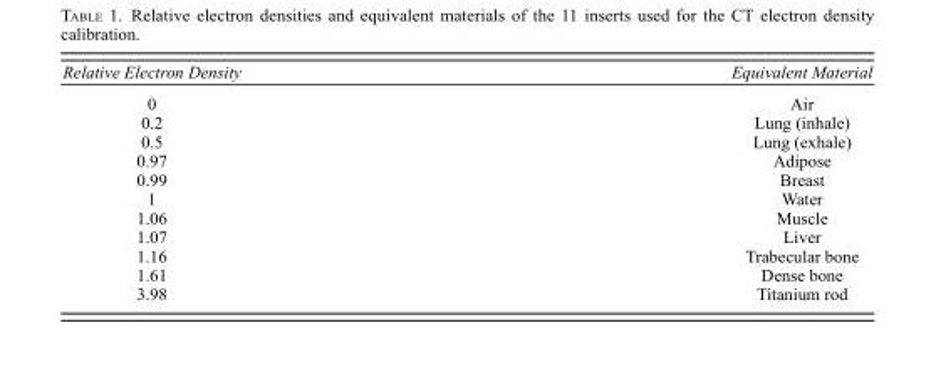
<table><thead><tr><td>Relative Electron Density</td><td>Equivalent Material</td></tr></thead><tbody><tr><td>0</td><td>Air</td></tr><tr><td>0.2</td><td>Lung (inhale)</td></tr><tr><td>0.5</td><td>Lung (exhale)</td></tr><tr><td>0.97</td><td>Adipose</td></tr><tr><td>0.99</td><td>Breast</td></tr><tr><td>1</td><td>Water</td></tr><tr><td>1.06</td><td>Muscle</td></tr><tr><td>1.07</td><td>Liver</td></tr><tr><td>1.16</td><td>Trabecular bone</td></tr><tr><td>1.61</td><td>Dense bone</td></tr><tr><td>3.98</td><td>Titanium rod</td></tr></tbody></table>